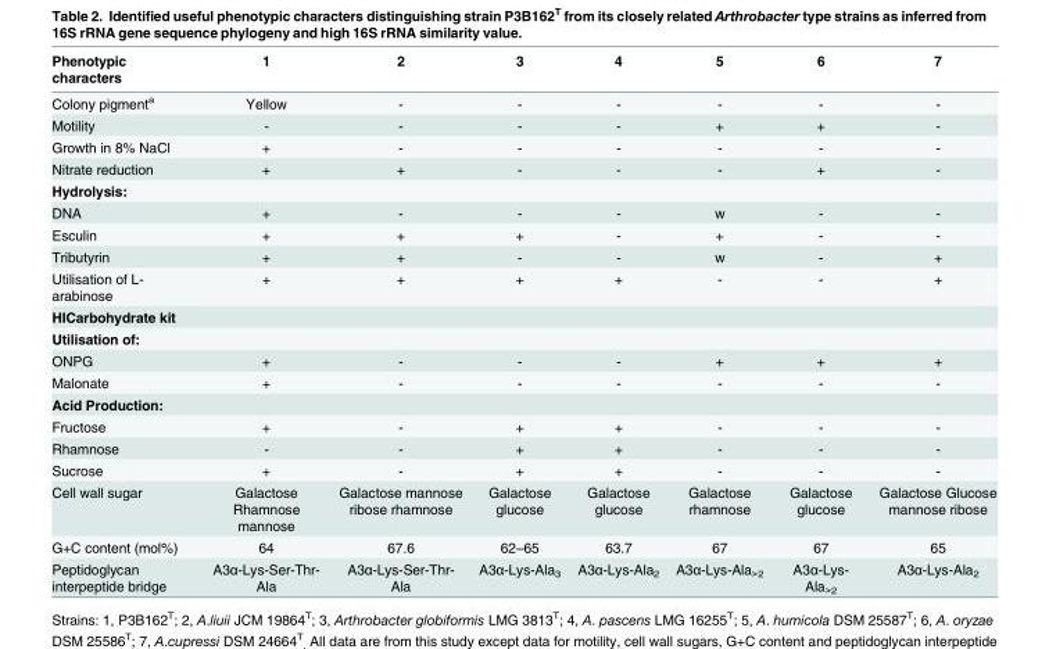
<table><thead><tr><td>Phenotypic characters</td><td>1</td><td>2</td><td>3</td><td>4</td><td>5</td><td>6</td><td>7</td></tr></thead><tbody><tr><td>Colony pigment<sup>a</sup></td><td>Yellow</td><td>-</td><td>-</td><td>-</td><td>-</td><td>-</td><td>-</td></tr><tr><td>Motility</td><td>-</td><td>-</td><td>-</td><td>-</td><td>+</td><td>+</td><td>-</td></tr><tr><td>Growth in 8% NaCl</td><td>+</td><td>-</td><td>-</td><td>-</td><td>-</td><td>-</td><td>-</td></tr><tr><td>Nitrate reduction</td><td>+</td><td>+</td><td>-</td><td>-</td><td>-</td><td>+</td><td>-</td></tr><tr><td colspan="8">Hydrolysis:</td></tr><tr><td>DNA</td><td>+</td><td>-</td><td>-</td><td>-</td><td>w</td><td>-</td><td>-</td></tr><tr><td>Esculin</td><td>+</td><td>+</td><td>+</td><td>-</td><td>+</td><td>-</td><td>-</td></tr><tr><td>Tributyrin</td><td>+</td><td>+</td><td>-</td><td>-</td><td>w</td><td>-</td><td>+</td></tr><tr><td>Utilisation of L- arabinose</td><td>+</td><td>+</td><td>+</td><td>+</td><td>-</td><td>-</td><td>+</td></tr><tr><td colspan="8">HICarbohydrate kit</td></tr><tr><td colspan="8">Utilisation of:</td></tr><tr><td>ONPG</td><td>+</td><td>-</td><td>-</td><td>-</td><td>+</td><td>+</td><td>+</td></tr><tr><td>Malonate</td><td>+</td><td>-</td><td>-</td><td>-</td><td>-</td><td>-</td><td>-</td></tr><tr><td colspan="8">Acid Production:</td></tr><tr><td>Fructose</td><td>+</td><td>-</td><td>+</td><td>+</td><td>-</td><td>-</td><td>-</td></tr><tr><td>Rhamnose</td><td>-</td><td>-</td><td>+</td><td>+</td><td>-</td><td>-</td><td>-</td></tr><tr><td>Sucrose</td><td>+</td><td>-</td><td>+</td><td>+</td><td>-</td><td>-</td><td>-</td></tr><tr><td>Cell wall sugar</td><td>Galactose Rhamnose mannose</td><td>Galactose mannose ribose rhamnose</td><td>Galactose glucose</td><td>Galactose glucose</td><td>Galactose rhamnose</td><td>Galactose glucose</td><td>Galactose Glucose mannose ribose</td></tr><tr><td>G+C content (mol%)</td><td>64</td><td>67.6</td><td>62–65</td><td>63.7</td><td>67</td><td>67</td><td>65</td></tr><tr><td>Peptidoglycan interpeptide bridge</td><td>A3α-Lys-Ser-Thr- Ala</td><td>A3α-Lys-Ser-Thr- Ala</td><td>A3α-Lys-Ala<sub>3</sub></td><td>A3α-Lys-Ala<sub>2</sub></td><td>A3α-Lys-Ala<sub>&gt;2</sub></td><td>A3α-Lys- Ala<sub>&gt;2</sub></td><td>A3α-Lys-Ala<sub>2</sub></td></tr></tbody></table>